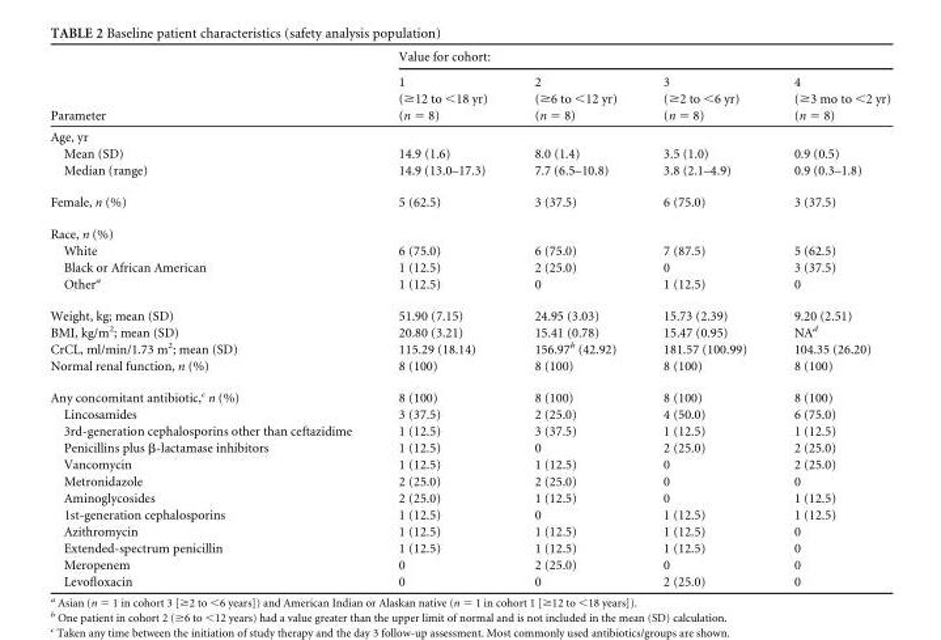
<table><thead><tr><td rowspan="2">Parameter</td><td colspan="4">Value for cohort:</td></tr><tr><td>1 (≥12 to &lt;18 yr) (n = 8)</td><td>2 (≥6 to &lt;12 yr) (n = 8)</td><td>3 (≥2 to &lt;6 yr) (n = 8)</td><td>4 (≥3 mo to &lt;2 yr) (n = 8)</td></tr></thead><tbody><tr><td colspan="5">Age, yr</td></tr><tr><td>Mean (SD)</td><td>14.9 (1.6)</td><td>8.0 (1.4)</td><td>3.5 (1.0)</td><td>0.9 (0.5)</td></tr><tr><td>Median (range)</td><td>14.9 (13.0–17.3)</td><td>7.7 (6.5–10.8)</td><td>3.8 (2.1–4.9)</td><td>0.9 (0.3–1.8)</td></tr><tr><td>Female, n (%)</td><td>5 (62.5)</td><td>3 (37.5)</td><td>6 (75.0)</td><td>3 (37.5)</td></tr><tr><td colspan="5">Race, n (%)</td></tr><tr><td>White</td><td>6 (75.0)</td><td>6 (75.0)</td><td>7 (87.5)</td><td>5 (62.5)</td></tr><tr><td>Black or African American</td><td>1 (12.5)</td><td>2 (25.0)</td><td>0</td><td>3 (37.5)</td></tr><tr><td>Other<sup>a</sup></td><td>1 (12.5)</td><td>0</td><td>1 (12.5)</td><td>0</td></tr><tr><td>Weight, kg; mean (SD)</td><td>51.90 (7.15)</td><td>24.95 (3.03)</td><td>15.73 (2.39)</td><td>9.20 (2.51)</td></tr><tr><td>BMI, kg/m<sup>2</sup>; mean (SD)</td><td>20.80 (3.21)</td><td>15.41 (0.78)</td><td>15.47 (0.95)</td><td>NA<sup>d</sup></td></tr><tr><td>CrCL, ml/min/1.73 m<sup>2</sup>; mean (SD)</td><td>115.29 (18.14)</td><td>156.97<sup>b</sup> (42.92)</td><td>181.57 (100.99)</td><td>104.35 (26.20)</td></tr><tr><td>Normal renal function, n (%)</td><td>8 (100)</td><td>8 (100)</td><td>8 (100)</td><td>8 (100)</td></tr><tr><td>Any concomitant antibiotic,<sup>c</sup> n (%)</td><td>8 (100)</td><td>8 (100)</td><td>8 (100)</td><td>8 (100)</td></tr><tr><td>Lincosamides</td><td>3 (37.5)</td><td>2 (25.0)</td><td>4 (50.0)</td><td>6 (75.0)</td></tr><tr><td>3rd-generation cephalosporins other than ceftazidime</td><td>1 (12.5)</td><td>3 (37.5)</td><td>1 (12.5)</td><td>1 (12.5)</td></tr><tr><td>Penicillins plus β-lactamase inhibitors</td><td>1 (12.5)</td><td>0</td><td>2 (25.0)</td><td>2 (25.0)</td></tr><tr><td>Vancomycin</td><td>1 (12.5)</td><td>1 (12.5)</td><td>0</td><td>2 (25.0)</td></tr><tr><td>Metronidazole</td><td>2 (25.0)</td><td>2 (25.0)</td><td>0</td><td>0</td></tr><tr><td>Aminoglycosides</td><td>2 (25.0)</td><td>1 (12.5)</td><td>0</td><td>1 (12.5)</td></tr><tr><td>1st-generation cephalosporins</td><td>1 (12.5)</td><td>0</td><td>1 (12.5)</td><td>1 (12.5)</td></tr><tr><td>Azithromycin</td><td>1 (12.5)</td><td>1 (12.5)</td><td>1 (12.5)</td><td>0</td></tr><tr><td>Extended-spectrum penicillin</td><td>1 (12.5)</td><td>1 (12.5)</td><td>1 (12.5)</td><td>0</td></tr><tr><td>Meropenem</td><td>0</td><td>2 (25.0)</td><td>0</td><td>0</td></tr><tr><td>Levofloxacin</td><td>0</td><td>0</td><td>2 (25.0)</td><td>0</td></tr></tbody></table>